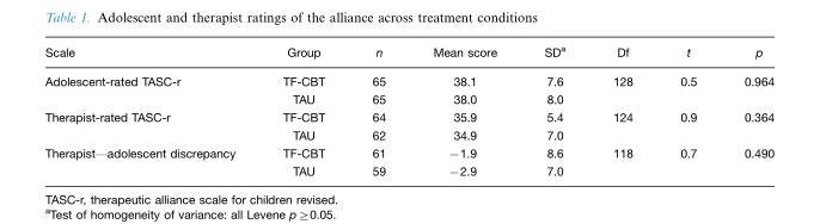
<table><thead><tr><td>Scale</td><td>Group</td><td>n</td><td>Mean score</td><td>SD<sup>a</sup></td><td>Df</td><td>t</td><td>p</td></tr></thead><tbody><tr><td>Adolescent-rated TASC-r</td><td>TF-CBT TAU</td><td>65 65</td><td>38.1 38.0</td><td>7.6 8.0</td><td>128</td><td>0.5</td><td>0.964</td></tr><tr><td>Therapist-rated TASC-r</td><td>TF-CBT TAU</td><td>64 62</td><td>35.9 34.9</td><td>5.4 7.0</td><td>124</td><td>0.9</td><td>0.364</td></tr><tr><td>Therapist*adolescent discrepancy</td><td>TF-CBT TAU</td><td>61 59</td><td>−1.9 −2.9</td><td>8.6 7.0</td><td>118</td><td>0.7</td><td>0.490</td></tr></tbody></table>